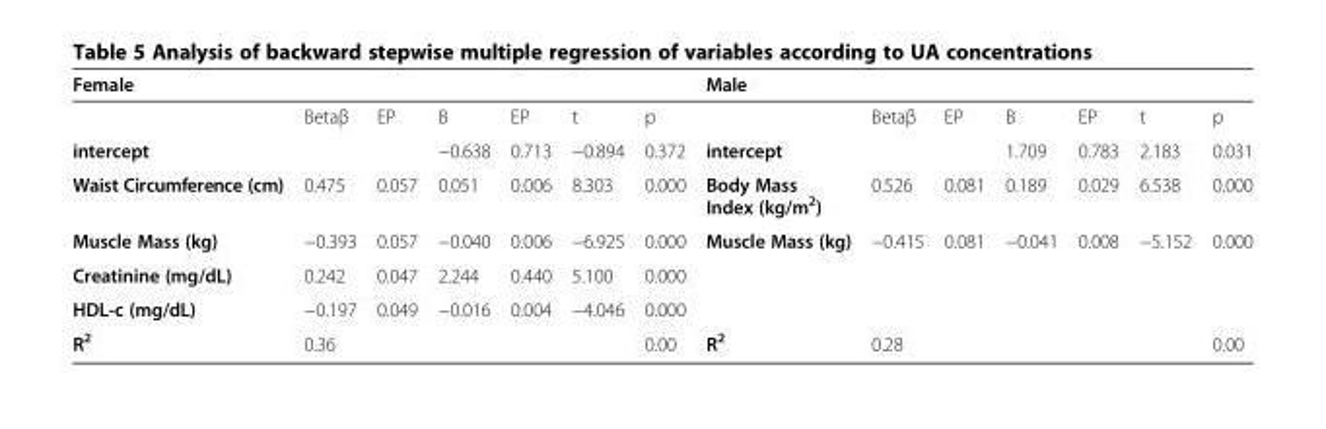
<table><thead><tr><td colspan="3">Female</td><td rowspan="2">B</td><td rowspan="2">EP</td><td rowspan="2">t</td><td rowspan="2">p</td><td colspan="2">Male</td><td rowspan="2">EP</td><td rowspan="2">B</td><td rowspan="2">EP</td><td rowspan="2">t</td><td rowspan="2">p</td></tr><tr><td></td><td>Betaβ</td><td>EP</td><td></td><td>Betaβ</td></tr></thead><tbody><tr><td>intercept</td><td></td><td></td><td>−0.638</td><td>0.713</td><td>−0.894</td><td>0.372</td><td>intercept</td><td></td><td></td><td>1.709</td><td>0.783</td><td>2.183</td><td>0.031</td></tr><tr><td>Waist Circumference (cm)</td><td>0.475</td><td>0.057</td><td>0.051</td><td>0.006</td><td>8.303</td><td>0.000</td><td>Body Mass Index (kg/m<sup>2</sup>)</td><td>0.526</td><td>0.081</td><td>0.189</td><td>0.029</td><td>6.538</td><td>0.000</td></tr><tr><td>Muscle Mass (kg)</td><td>−0.393</td><td>0.057</td><td>−0.040</td><td>0.006</td><td>−6.925</td><td>0.000</td><td>Muscle Mass (kg)</td><td>−0.415</td><td>0.081</td><td>−0.041</td><td>0.008</td><td>−5.152</td><td>0.000</td></tr><tr><td>Creatinine (mg/dL)</td><td>0.242</td><td>0.047</td><td>2.244</td><td>0.440</td><td>5.100</td><td>0.000</td><td></td><td></td><td></td><td></td><td></td><td></td><td></td></tr><tr><td>HDL-c (mg/dL)</td><td>−0.197</td><td>0.049</td><td>−0.016</td><td>0.004</td><td>−4.046</td><td>0.000</td><td></td><td></td><td></td><td></td><td></td><td></td><td></td></tr><tr><td>R<sup>2</sup></td><td>0.36</td><td></td><td></td><td></td><td></td><td>0.00</td><td>R<sup>2</sup></td><td>0.28</td><td></td><td></td><td></td><td></td><td>0.00</td></tr></tbody></table>